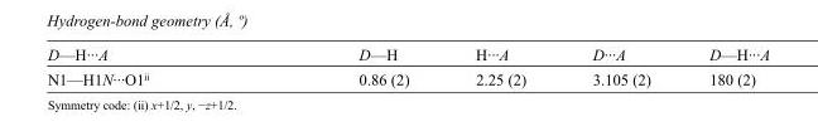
<table><tbody><tr><td>D—H···A</td><td>D—H</td><td>H···A</td><td>D···A</td><td>D—H···A</td></tr><tr><td>N1—H1N···O1<sup>ii</sup></td><td>0.86 (2)</td><td>2.25 (2)</td><td>3.105 (2)</td><td>180 (2)</td></tr></tbody></table>